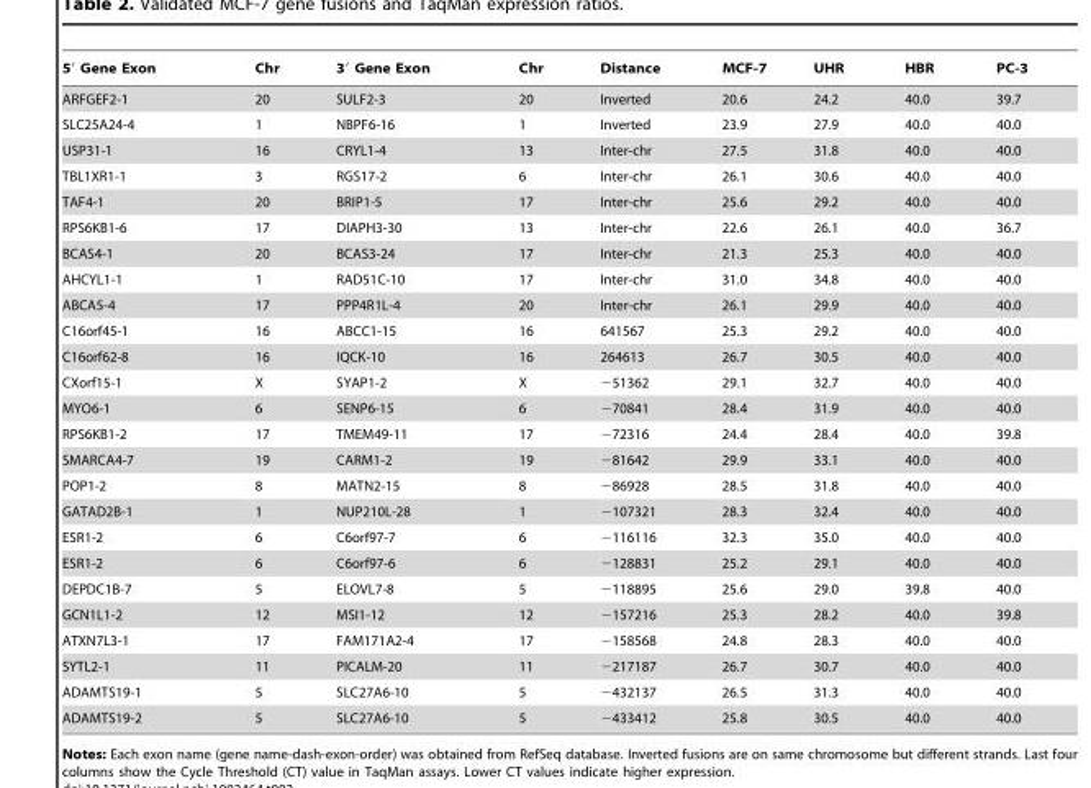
<table><thead><tr><td>5′ Gene Exon</td><td>Chr</td><td>3′ Gene Exon</td><td>Chr</td><td>Distance</td><td>MCF-7</td><td>UHR</td><td>HBR</td><td>PC-3</td></tr></thead><tbody><tr><td>ARFGEF2-1</td><td>20</td><td>SULF2-3</td><td>20</td><td>Inverted</td><td>20.6</td><td>24.2</td><td>40.0</td><td>39.7</td></tr><tr><td>SLC25A24-4</td><td>1</td><td>NBPF6-16</td><td>1</td><td>Inverted</td><td>23.9</td><td>27.9</td><td>40.0</td><td>40.0</td></tr><tr><td>USP31-1</td><td>16</td><td>CRYL1-4</td><td>13</td><td>Inter-chr</td><td>27.5</td><td>31.8</td><td>40.0</td><td>40.0</td></tr><tr><td>TBL1XR1-1</td><td>3</td><td>RGS17-2</td><td>6</td><td>Inter-chr</td><td>26.1</td><td>30.6</td><td>40.0</td><td>40.0</td></tr><tr><td>TAF4-1</td><td>20</td><td>BRIP1-5</td><td>17</td><td>Inter-chr</td><td>25.6</td><td>29.2</td><td>40.0</td><td>40.0</td></tr><tr><td>RPS6KB1-6</td><td>17</td><td>DIAPH3-30</td><td>13</td><td>Inter-chr</td><td>22.6</td><td>26.1</td><td>40.0</td><td>36.7</td></tr><tr><td>BCAS4-1</td><td>20</td><td>BCAS3-24</td><td>17</td><td>Inter-chr</td><td>21.3</td><td>25.3</td><td>40.0</td><td>40.0</td></tr><tr><td>AHCYL1-1</td><td>1</td><td>RAD51C-10</td><td>17</td><td>Inter-chr</td><td>31.0</td><td>34.8</td><td>40.0</td><td>40.0</td></tr><tr><td>ABCA5-4</td><td>17</td><td>PPP4R1L-4</td><td>20</td><td>Inter-chr</td><td>26.1</td><td>29.9</td><td>40.0</td><td>40.0</td></tr><tr><td>C16orf45-1</td><td>16</td><td>ABCC1-15</td><td>16</td><td>641567</td><td>25.3</td><td>29.2</td><td>40.0</td><td>40.0</td></tr><tr><td>C16orf62-8</td><td>16</td><td>IQCK-10</td><td>16</td><td>264613</td><td>26.7</td><td>30.5</td><td>40.0</td><td>40.0</td></tr><tr><td>CXorf15-1</td><td>X</td><td>SYAP1-2</td><td>X</td><td>−51362</td><td>29.1</td><td>32.7</td><td>40.0</td><td>40.0</td></tr><tr><td>MYO6-1</td><td>6</td><td>SENP6-15</td><td>6</td><td>−70841</td><td>28.4</td><td>31.9</td><td>40.0</td><td>40.0</td></tr><tr><td>RPS6KB1-2</td><td>17</td><td>TMEM49-11</td><td>17</td><td>−72316</td><td>24.4</td><td>28.4</td><td>40.0</td><td>39.8</td></tr><tr><td>SMARCA4-7</td><td>19</td><td>CARM1-2</td><td>19</td><td>−81642</td><td>29.9</td><td>33.1</td><td>40.0</td><td>40.0</td></tr><tr><td>POP1-2</td><td>8</td><td>MATN2-15</td><td>8</td><td>−86928</td><td>28.5</td><td>31.8</td><td>40.0</td><td>40.0</td></tr><tr><td>GATAD2B-1</td><td>1</td><td>NUP210L-28</td><td>1</td><td>−107321</td><td>28.3</td><td>32.4</td><td>40.0</td><td>40.0</td></tr><tr><td>ESR1-2</td><td>6</td><td>C6orf97-7</td><td>6</td><td>−116116</td><td>32.3</td><td>35.0</td><td>40.0</td><td>40.0</td></tr><tr><td>ESR1-2</td><td>6</td><td>C6orf97-6</td><td>6</td><td>−128831</td><td>25.2</td><td>29.1</td><td>40.0</td><td>40.0</td></tr><tr><td>DEPDC1B-7</td><td>5</td><td>ELOVL7-8</td><td>5</td><td>−118895</td><td>25.6</td><td>29.0</td><td>39.8</td><td>40.0</td></tr><tr><td>GCN1L1-2</td><td>12</td><td>MSI1-12</td><td>12</td><td>−157216</td><td>25.3</td><td>28.2</td><td>40.0</td><td>39.8</td></tr><tr><td>ATXN7L3-1</td><td>17</td><td>FAM171A2-4</td><td>17</td><td>−158568</td><td>24.8</td><td>28.3</td><td>40.0</td><td>40.0</td></tr><tr><td>SYTL2-1</td><td>11</td><td>PICALM-20</td><td>11</td><td>−217187</td><td>26.7</td><td>30.7</td><td>40.0</td><td>40.0</td></tr><tr><td>ADAMTS19-1</td><td>5</td><td>SLC27A6-10</td><td>5</td><td>−432137</td><td>26.5</td><td>31.3</td><td>40.0</td><td>40.0</td></tr><tr><td>ADAMTS19-2</td><td>5</td><td>SLC27A6-10</td><td>5</td><td>−433412</td><td>25.8</td><td>30.5</td><td>40.0</td><td>40.0</td></tr></tbody></table>